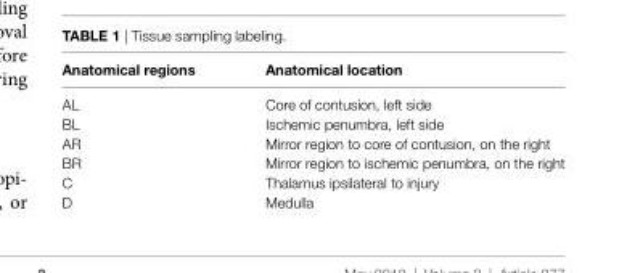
<table><thead><tr><td>anatomical regions</td><td>anatomical location</td></tr></thead><tbody><tr><td>AL</td><td>Core of contusion, left side</td></tr><tr><td>BL</td><td>Ischemic penumbra, left side</td></tr><tr><td>AR</td><td>Mirror region to core of contusion, on the right</td></tr><tr><td>BR</td><td>Mirror region to ischemic penumbra, on the right</td></tr><tr><td>C</td><td>Thalamus ipsilateral to injury</td></tr><tr><td>D</td><td>Medulla</td></tr></tbody></table>